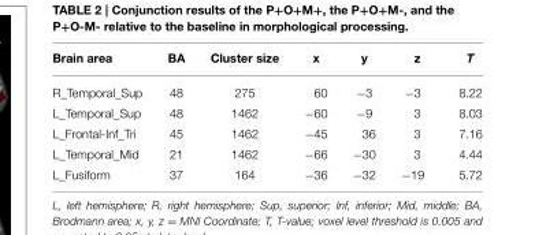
<table><thead><tr><td>Brain area</td><td>BA</td><td>Cluster size</td><td>x</td><td>y</td><td>z</td><td>T</td></tr></thead><tbody><tr><td>R_Temporal_Sup</td><td>48</td><td>275</td><td>60</td><td>−3</td><td>−3</td><td>8.22</td></tr><tr><td>L_Temporal_Sup</td><td>48</td><td>1462</td><td>−60</td><td>−9</td><td>3</td><td>8.03</td></tr><tr><td>L_Frontal-Inf_Tri</td><td>45</td><td>1462</td><td>−45</td><td>36</td><td>3</td><td>7.16</td></tr><tr><td>L_Temporal_Mid</td><td>21</td><td>1462</td><td>−66</td><td>−30</td><td>3</td><td>4.44</td></tr><tr><td>L_Fusiform</td><td>37</td><td>164</td><td>−36</td><td>−32</td><td>−19</td><td>5.72</td></tr></tbody></table>